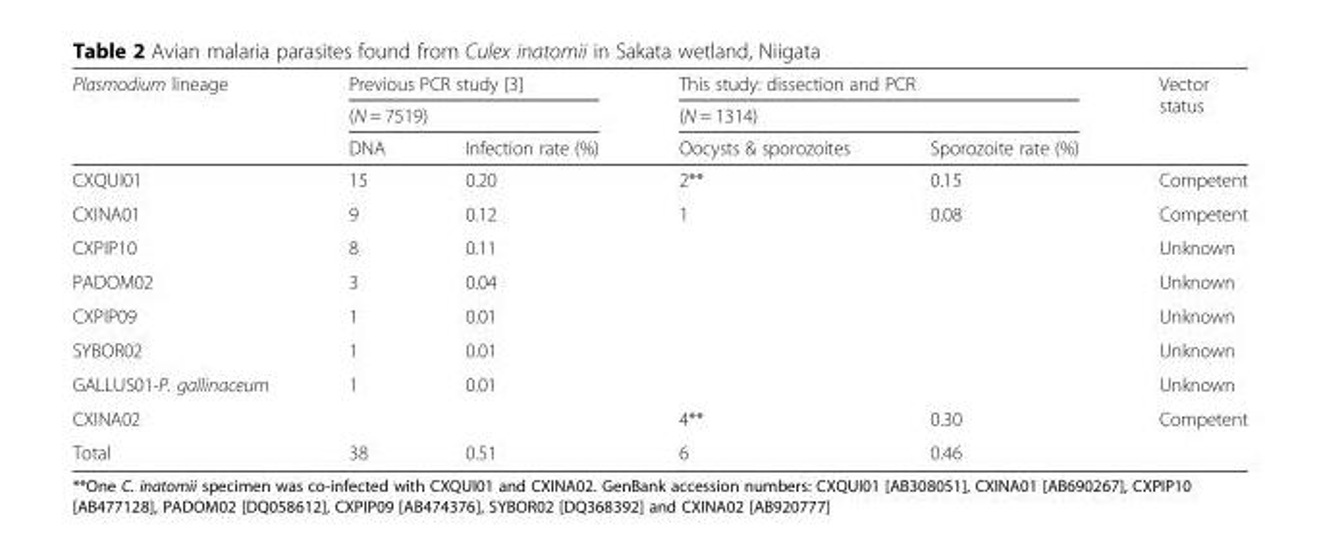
<table><thead><tr><td rowspan="3">Plasmodium lineage</td><td rowspan="2" colspan="2">Previous PCR study [3] (N = 7519)</td><td rowspan="2" colspan="2">This study: dissection and PCR (N = 1314)</td><td rowspan="3">Vector status</td></tr><tr></tr><tr><td>DNA</td><td>Infection rate (%)</td><td>Oocysts &amp; sporozoites</td><td>Sporozoite rate (%)</td></tr></thead><tbody><tr><td>CXQUI01</td><td>15</td><td>0.20</td><td>2**</td><td>0.15</td><td>Competent</td></tr><tr><td>CXINA01</td><td>9</td><td>0.12</td><td>1</td><td>0.08</td><td>Competent</td></tr><tr><td>CXPIP10</td><td>8</td><td>0.11</td><td></td><td></td><td>Unknown</td></tr><tr><td>PADOM02</td><td>3</td><td>0.04</td><td></td><td></td><td>Unknown</td></tr><tr><td>CXPIP09</td><td>1</td><td>0.01</td><td></td><td></td><td>Unknown</td></tr><tr><td>SYBOR02</td><td>1</td><td>0.01</td><td></td><td></td><td>Unknown</td></tr><tr><td>GALLUS01-P. gallinaceum</td><td>1</td><td>0.01</td><td></td><td></td><td>Unknown</td></tr><tr><td>CXINA02</td><td></td><td></td><td>4**</td><td>0.30</td><td>Competent</td></tr><tr><td>Total</td><td>38</td><td>0.51</td><td>6</td><td>0.46</td><td></td></tr></tbody></table>